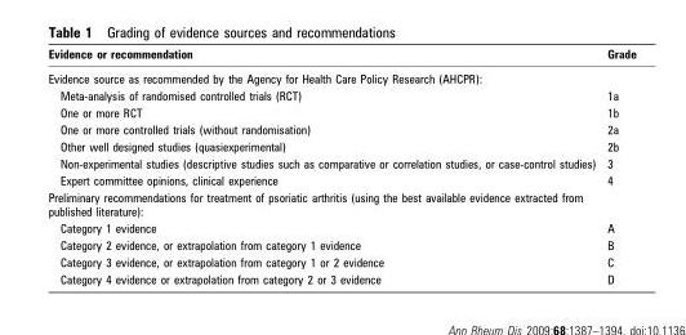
<table><thead><tr><td>Evidence or recommendation</td><td>Grade</td></tr></thead><tbody><tr><td colspan="2">Evidence source as recommended by the Agency for Health Care Policy Research (AHCPR):</td></tr><tr><td>Meta-analysis of randomised controlled trials (RCT)</td><td>1a</td></tr><tr><td>One or more RCT</td><td>1b</td></tr><tr><td>One or more controlled trials (without randomisation)</td><td>2a</td></tr><tr><td>Other well designed studies (quasiexperimental)</td><td>2b</td></tr><tr><td>Non-experimental studies (descriptive studies such as comparative or correlation studies, or case-control studies)</td><td>3</td></tr><tr><td>Expert committee opinions, clinical experience</td><td>4</td></tr><tr><td colspan="2">Preliminary recommendations for treatment of psoriatic arthritis (using the best available evidence extracted from published literature):</td></tr><tr><td>Category 1 evidence</td><td>A</td></tr><tr><td>Category 2 evidence, or extrapolation from category 1 evidence</td><td>B</td></tr><tr><td>Category 3 evidence, or extrapolation from category 1 or 2 evidence</td><td>C</td></tr><tr><td>Category 4 evidence or extrapolation from category 2 or 3 evidence</td><td>D</td></tr></tbody></table>